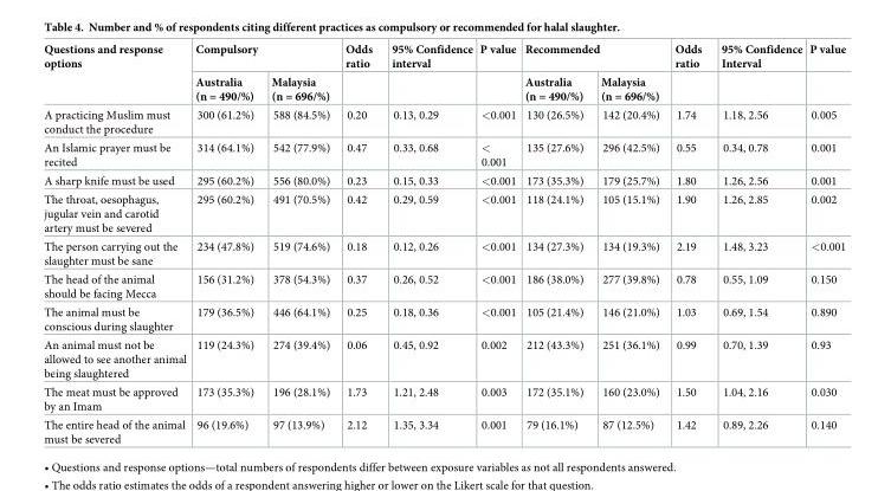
<table><thead><tr><td rowspan="2">Questions and response options</td><td colspan="2">Compulsory</td><td rowspan="2">Odds ratio</td><td rowspan="2">95% Confidence interval</td><td rowspan="2">P value</td><td colspan="2">Recommended</td><td rowspan="2">Odds ratio</td><td rowspan="2">95% Confidence Interval</td><td rowspan="2">P value</td></tr><tr><td>Australia (n = 490/%)</td><td>Malaysia (n = 696/%)</td><td>Australia (n = 490/%)</td><td>Malaysia (n = 696/%)</td></tr></thead><tbody><tr><td>A practicing Muslim must conduct the procedure</td><td>300 (61.2%)</td><td>588 (84.5%)</td><td>0.20</td><td>0.13, 0.29</td><td>&lt;0.001</td><td>130 (26.5%)</td><td>142 (20.4%)</td><td>1.74</td><td>1.18, 2.56</td><td>0.005</td></tr><tr><td>An Islamic prayer must be recited</td><td>314 (64.1%)</td><td>542 (77.9%)</td><td>0.47</td><td>0.33, 0.68</td><td>&lt; 0.001</td><td>135 (27.6%)</td><td>296 (42.5%)</td><td>0.55</td><td>0.34, 0.78</td><td>0.001</td></tr><tr><td>A sharp knife must be used</td><td>295 (60.2%)</td><td>556 (80.0%)</td><td>0.23</td><td>0.15, 0.33</td><td>&lt;0.001</td><td>173 (35.3%)</td><td>179 (25.7%)</td><td>1.80</td><td>1.26, 2.56</td><td>0.001</td></tr><tr><td>The throat, oesophagus, jugular vein and carotid artery must be severed</td><td>295 (60.2%)</td><td>491 (70.5%)</td><td>0.42</td><td>0.29, 0.59</td><td>&lt;0.001</td><td>118 (24.1%)</td><td>105 (15.1%)</td><td>1.90</td><td>1.26, 2.85</td><td>0.002</td></tr><tr><td>The person carrying out the slaughter must be sane</td><td>234 (47.8%)</td><td>519 (74.6%)</td><td>0.18</td><td>0.12, 0.26</td><td>&lt;0.001</td><td>134 (27.3%)</td><td>134 (19.3%)</td><td>2.19</td><td>1.48, 3.23</td><td>&lt;0.001</td></tr><tr><td>The head of the animal should be facing Mecca</td><td>156 (31.2%)</td><td>378 (54.3%)</td><td>0.37</td><td>0.26, 0.52</td><td>&lt;0.001</td><td>186 (38.0%)</td><td>277 (39.8%)</td><td>0.78</td><td>0.55, 1.09</td><td>0.150</td></tr><tr><td>The animal must be conscious during slaughter</td><td>179 (36.5%)</td><td>446 (64.1%)</td><td>0.25</td><td>0.18, 0.36</td><td>&lt;0.001</td><td>105 (21.4%)</td><td>146 (21.0%)</td><td>1.03</td><td>0.69, 1.54</td><td>0.890</td></tr><tr><td>An animal must not be allowed to see another animal being slaughtered</td><td>119 (24.3%)</td><td>274 (39.4%)</td><td>0.06</td><td>0.45, 0.92</td><td>0.002</td><td>212 (43.3%)</td><td>251 (36.1%)</td><td>0.99</td><td>0.70, 1.39</td><td>0.93</td></tr><tr><td>The meat must be approved by an Imam</td><td>173 (35.3%)</td><td>196 (28.1%)</td><td>1.73</td><td>1.21, 2.48</td><td>0.003</td><td>172 (35.1%)</td><td>160 (23.0%)</td><td>1.50</td><td>1.04, 2.16</td><td>0.030</td></tr><tr><td>The entire head of the animal must be severed</td><td>96 (19.6%)</td><td>97 (13.9%)</td><td>2.12</td><td>1.35, 3.34</td><td>0.001</td><td>79 (16.1%)</td><td>87 (12.5%)</td><td>1.42</td><td>0.89, 2.26</td><td>0.140</td></tr></tbody></table>